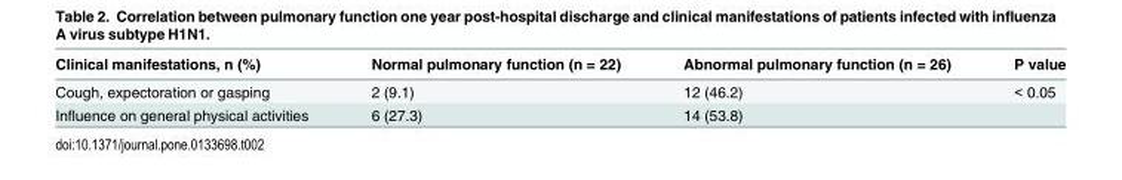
<table><thead><tr><td>Clinical manifestations, n (%)</td><td>Normal pulmonary function (n = 22)</td><td>Abnormal pulmonary function (n = 26)</td><td>P value</td></tr></thead><tbody><tr><td>Cough, expectoration or gasping</td><td>2 (9.1)</td><td>12 (46.2)</td><td>&lt; 0.05</td></tr><tr><td>Influence on general physical activities</td><td>6 (27.3)</td><td>14 (53.8)</td><td></td></tr></tbody></table>